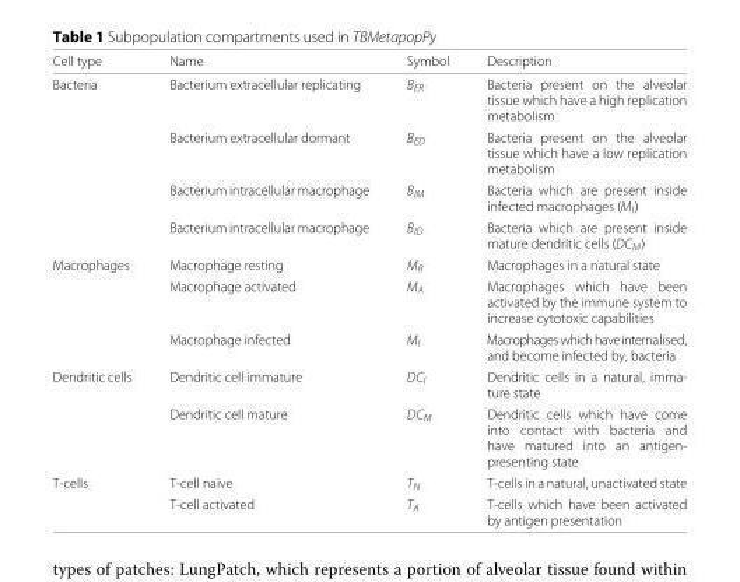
<table><thead><tr><td>Cell type</td><td>Name</td><td>Symbol</td><td>Description</td></tr></thead><tbody><tr><td rowspan="4">Bacteria</td><td>Bacterium extracellular replicating</td><td>B<sub>ER</sub></td><td>Bacteria present on the alveolar tissue which have a high replication metabolism</td></tr><tr><td>Bacterium extracellular dormant</td><td>B<sub>ED</sub></td><td>Bacteria present on the alveolar tissue which have a low replication metabolism</td></tr><tr><td>Bacterium intracellular macrophage</td><td>B<sub>IM</sub></td><td>Bacteria which are present inside infected macrophages (M<sub>I</sub>)</td></tr><tr><td>Bacterium intracellular macrophage</td><td>B<sub>ID</sub></td><td>Bacteria which are present inside mature dendritic cells (DC<sub>M</sub>)</td></tr><tr><td rowspan="3">Macrophages</td><td>Macrophage resting</td><td>M<sub>R</sub></td><td>Macrophages in a natural state</td></tr><tr><td>Macrophage activated</td><td>M<sub>A</sub></td><td>Macrophages which have been activated by the immune system to increase cytotoxic capabilities</td></tr><tr><td>Macrophage infected</td><td>M<sub>I</sub></td><td>Macrophageswhichhaveinternalised, and become infected by, bacteria</td></tr><tr><td rowspan="2">Dendritic cells</td><td>Dendritic cell immature</td><td>DC<sub>I</sub></td><td>Dendritic cells in a natural, imma- ture state</td></tr><tr><td>Dendritic cell mature</td><td>DC<sub>M</sub></td><td>Dendritic cells which have come into contact with bacteria and have matured into an antigen- presenting state</td></tr><tr><td rowspan="2">T-cells</td><td>T-cell naïve</td><td>T<sub>N</sub></td><td>T-cells in a natural, unactivated state</td></tr><tr><td>T-cell activated</td><td>T<sub>A</sub></td><td>T-cells which have been activated by antigen presentation</td></tr></tbody></table>